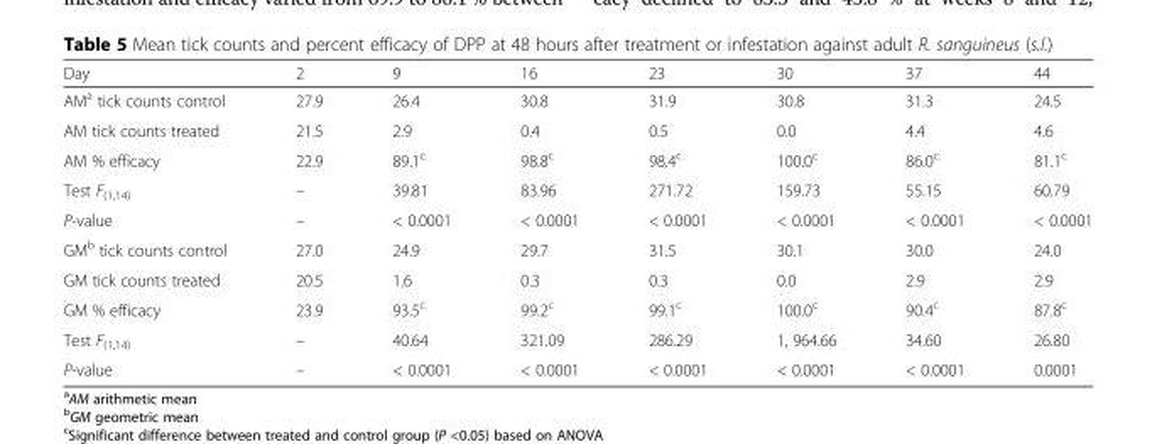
<table><thead><tr><td>Day</td><td>2</td><td>9</td><td>16</td><td>23</td><td>30</td><td>37</td><td>44</td></tr></thead><tbody><tr><td>AM<sup>a</sup> tick counts control</td><td>27.9</td><td>26.4</td><td>30.8</td><td>31.9</td><td>30.8</td><td>31.3</td><td>24.5</td></tr><tr><td>AM tick counts treated</td><td>21.5</td><td>2.9</td><td>0.4</td><td>0.5</td><td>0.0</td><td>4.4</td><td>4.6</td></tr><tr><td>AM % efficacy</td><td>22.9</td><td>89.1<sup>c</sup></td><td>98.8<sup>c</sup></td><td>98.4<sup>c</sup></td><td>100.0<sup>c</sup></td><td>86.0<sup>c</sup></td><td>81.1<sup>c</sup></td></tr><tr><td>Test F<sub>(1,14)</sub></td><td>–</td><td>39.81</td><td>83.96</td><td>271.72</td><td>159.73</td><td>55.15</td><td>60.79</td></tr><tr><td>P-value</td><td>–</td><td>&lt; 0.0001</td><td>&lt; 0.0001</td><td>&lt; 0.0001</td><td>&lt; 0.0001</td><td>&lt; 0.0001</td><td>&lt; 0.0001</td></tr><tr><td>GM<sup>b</sup> tick counts control</td><td>27.0</td><td>24.9</td><td>29.7</td><td>31.5</td><td>30.1</td><td>30.0</td><td>24.0</td></tr><tr><td>GM tick counts treated</td><td>20.5</td><td>1.6</td><td>0.3</td><td>0.3</td><td>0.0</td><td>2.9</td><td>2.9</td></tr><tr><td>GM % efficacy</td><td>23.9</td><td>93.5<sup>c</sup></td><td>99.2<sup>c</sup></td><td>99.1<sup>c</sup></td><td>100.0<sup>c</sup></td><td>90.4<sup>c</sup></td><td>87.8<sup>c</sup></td></tr><tr><td>Test F<sub>(1,14)</sub></td><td>–</td><td>40.64</td><td>321.09</td><td>286.29</td><td>1, 964.66</td><td>34.60</td><td>26.80</td></tr><tr><td>P-value</td><td>–</td><td>&lt; 0.0001</td><td>&lt; 0.0001</td><td>&lt; 0.0001</td><td>&lt; 0.0001</td><td>&lt; 0.0001</td><td>0.0001</td></tr></tbody></table>